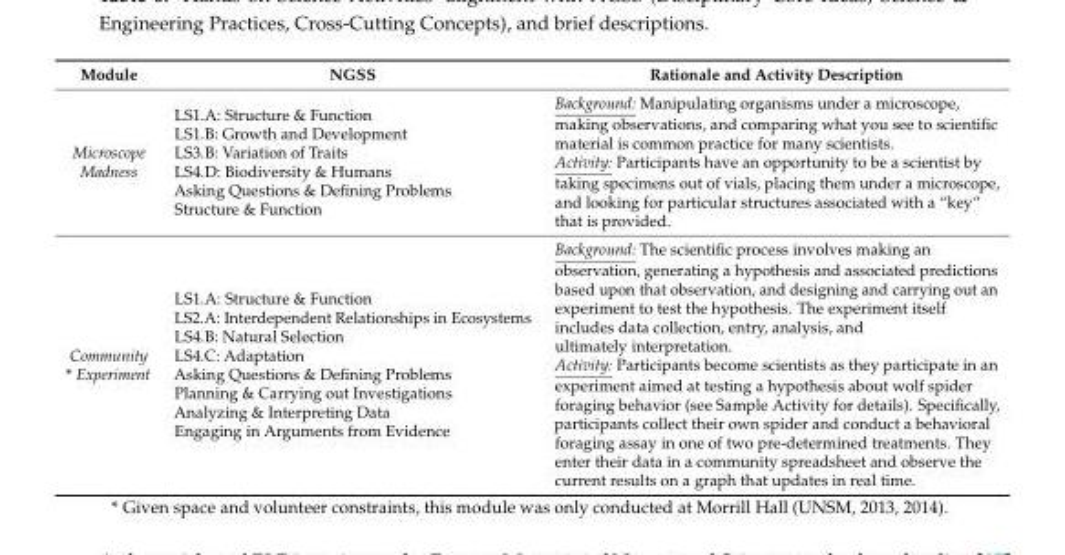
<table><thead><tr><td>Module</td><td>NGSS</td><td>Rationale and Activity Description</td></tr></thead><tbody><tr><td>Microscope Madness</td><td>LS1.A: Structure &amp; Function LS1.B: Growth and Development LS3.B: Variation of Traits LS4.D: Biodiversity &amp; Humans Asking Questions &amp; Defining Problems Structure &amp; Function</td><td>Background: Manipulating organisms under a microscope, making observations, and comparing what you see to scientific material is common practice for many scientists. Activity: Participants have an opportunity to be a scientist by taking specimens out of vials, placing them under a microscope, and looking for particular structures associated with a “key” that is provided.</td></tr><tr><td>Community * Experiment</td><td>LS1.A: Structure &amp; Function LS2.A: Interdependent Relationships in Ecosystems LS4.B: Natural Selection LS4.C: Adaptation Asking Questions &amp; Defining Problems Planning &amp; Carrying out Investigations Analyzing &amp; Interpreting Data Engaging in Arguments from Evidence</td><td>Background: The scientific process involves making an observation, generating a hypothesis and associated predictions based upon that observation, and designing and carrying out an experiment to test the hypothesis. The experiment itself includes data collection, entry, analysis, and ultimately interpretation. Activity: Participants become scientists as they participate in an experiment aimed at testing a hypothesis about wolf spider foraging behavior (see Sample Activity for details). Specifically, participants collect their own spider and conduct a behavioral foraging assay in one of two pre-determined treatments. They enter their data in a community spreadsheet and observe the current results on a graph that updates in real time.</td></tr></tbody></table>